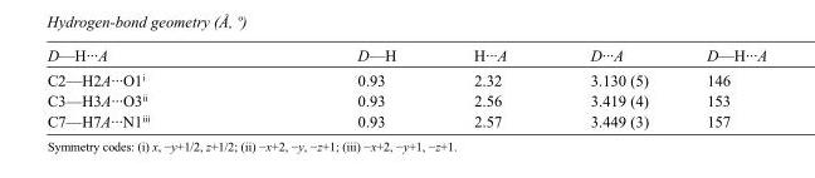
<table><tbody><tr><td>D—H···A</td><td>D—H</td><td>H···A</td><td>D···A</td><td>D—H···A</td></tr><tr><td>C2—H2A···O1<sup>i</sup></td><td>0.93</td><td>2.32</td><td>3.130 (5)</td><td>146</td></tr><tr><td>C3—H3A···O3<sup>ii</sup></td><td>0.93</td><td>2.56</td><td>3.419 (4)</td><td>153</td></tr><tr><td>C7—H7A···N1<sup>iii</sup></td><td>0.93</td><td>2.57</td><td>3.449 (3)</td><td>157</td></tr></tbody></table>